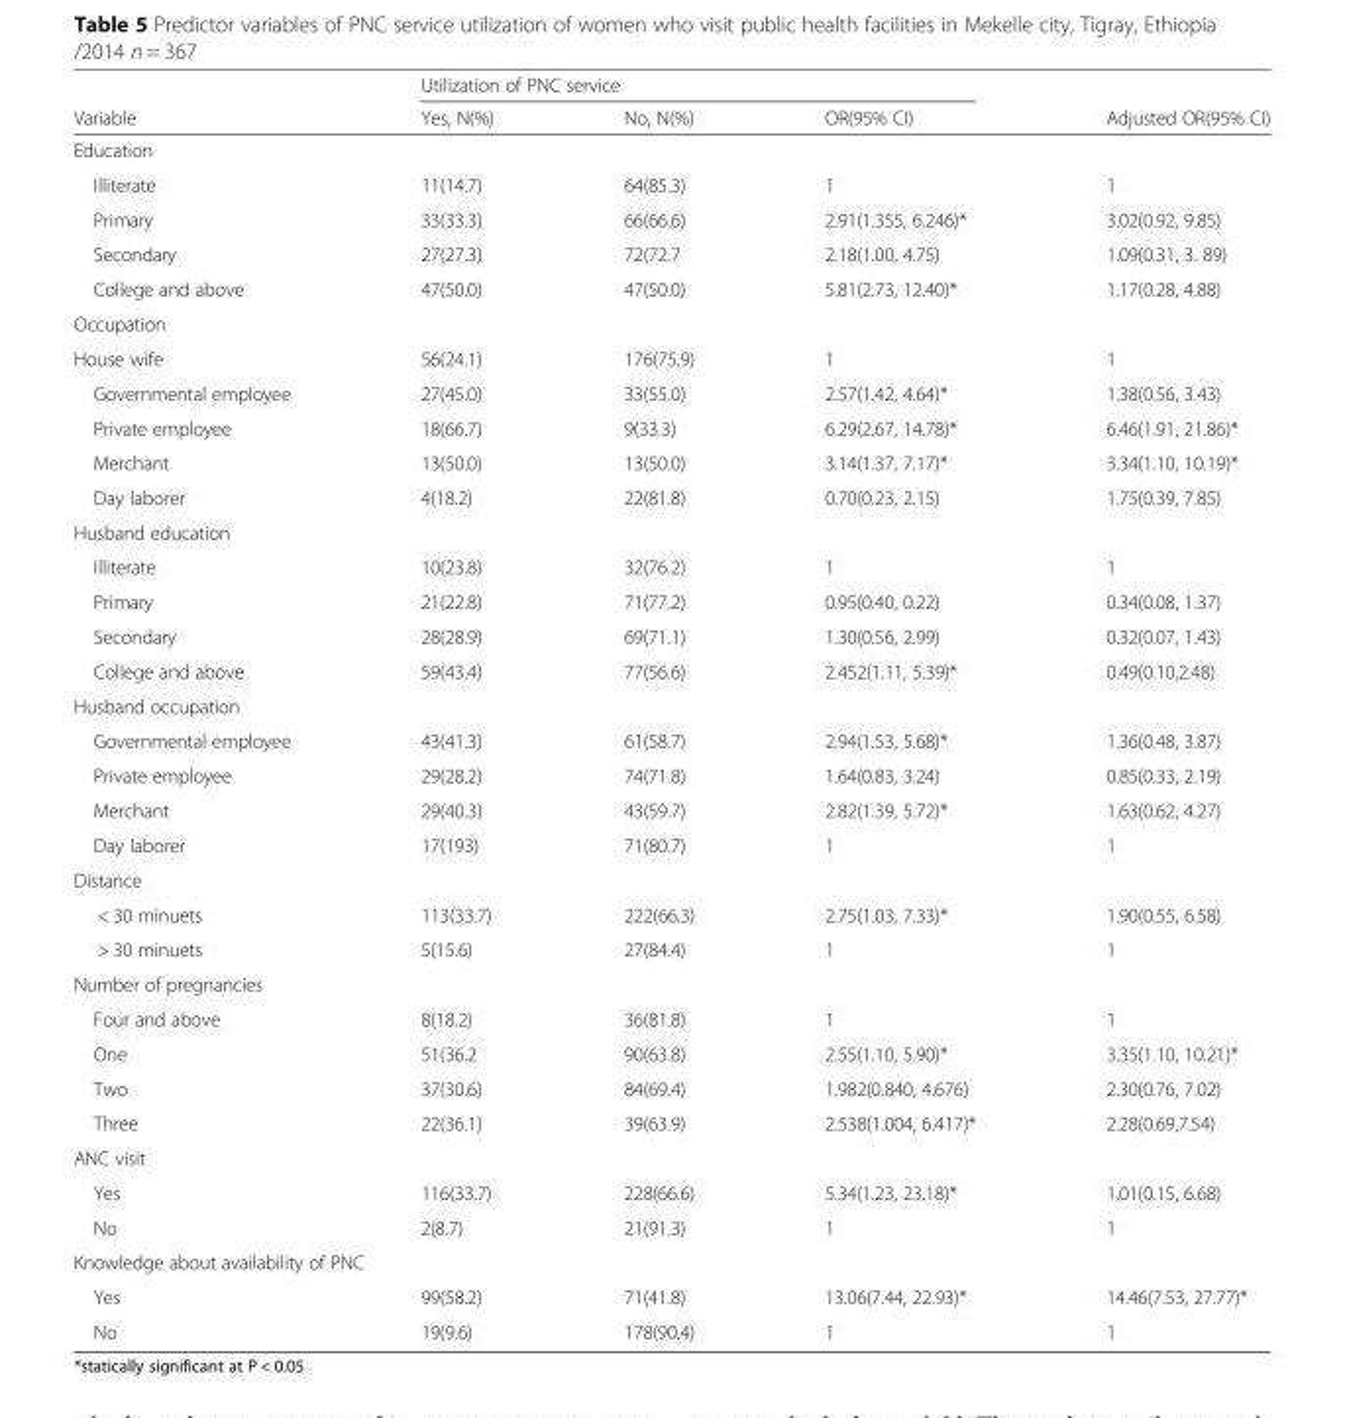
<table><thead><tr><td rowspan="2">Variable</td><td colspan="3">Utilization of PNC service</td><td rowspan="2">Adjusted OR(95% CI)</td></tr><tr><td>Yes, N(%)</td><td>No, N(%)</td><td>OR(95% CI)</td></tr></thead><tbody><tr><td colspan="5">Education</td></tr><tr><td>Illiterate</td><td>11(14.7)</td><td>64(85.3)</td><td>1</td><td>1</td></tr><tr><td>Primary</td><td>33(33.3)</td><td>66(66.6)</td><td>2.91(1.355, 6.246)*</td><td>3.02(0.92, 9.85)</td></tr><tr><td>Secondary</td><td>27(27.3)</td><td>72(72.7</td><td>2.18(1.00, 4.75)</td><td>1.09(0.31, 3. 89)</td></tr><tr><td>College and above</td><td>47(50.0)</td><td>47(50.0)</td><td>5.81(2.73, 12.40)*</td><td>1.17(0.28, 4.88)</td></tr><tr><td colspan="5">Occupation</td></tr><tr><td>House wife</td><td>56(24.1)</td><td>176(75.9)</td><td>1</td><td>1</td></tr><tr><td>Governmental employee</td><td>27(45.0)</td><td>33(55.0)</td><td>2.57(1.42, 4.64)*</td><td>1.38(0.56, 3.43)</td></tr><tr><td>Private employee</td><td>18(66.7)</td><td>9(33.3)</td><td>6.29(2.67, 14.78)*</td><td>6.46(1.91, 21.86)*</td></tr><tr><td>Merchant</td><td>13(50.0)</td><td>13(50.0)</td><td>3.14(1.37, 7.17)*</td><td>3.34(1.10, 10.19)*</td></tr><tr><td>Day laborer</td><td>4(18.2)</td><td>22(81.8)</td><td>0.70(0.23, 2.15)</td><td>1.75(0.39, 7.85)</td></tr><tr><td colspan="5">Husband education</td></tr><tr><td>Illiterate</td><td>10(23.8)</td><td>32(76.2)</td><td>1</td><td>1</td></tr><tr><td>Primary</td><td>21(22.8)</td><td>71(77.2)</td><td>0.95(0.40, 0.22)</td><td>0.34(0.08, 1.37)</td></tr><tr><td>Secondary</td><td>28(28.9)</td><td>69(71.1)</td><td>1.30(0.56, 2.99)</td><td>0.32(0.07, 1.43)</td></tr><tr><td>College and above</td><td>59(43.4)</td><td>77(56.6)</td><td>2.452(1.11, 5.39)*</td><td>0.49(0.10,2.48)</td></tr><tr><td colspan="5">Husband occupation</td></tr><tr><td>Governmental employee</td><td>43(41.3)</td><td>61(58.7)</td><td>2.94(1.53, 5.68)*</td><td>1.36(0.48, 3.87)</td></tr><tr><td>Private employee</td><td>29(28.2)</td><td>74(71.8)</td><td>1.64(0.83, 3.24)</td><td>0.85(0.33, 2.19)</td></tr><tr><td>Merchant</td><td>29(40.3)</td><td>43(59.7)</td><td>2.82(1.39, 5.72)*</td><td>1.63(0.62, 4.27)</td></tr><tr><td>Day laborer</td><td>17(193)</td><td>71(80.7)</td><td>1</td><td>1</td></tr><tr><td colspan="5">Distance</td></tr><tr><td>&lt; 30 minuets</td><td>113(33.7)</td><td>222(66.3)</td><td>2.75(1.03, 7.33)*</td><td>1.90(0.55, 6.58)</td></tr><tr><td>&gt; 30 minuets</td><td>5(15.6)</td><td>27(84.4)</td><td>1</td><td>1</td></tr><tr><td colspan="5">Number of pregnancies</td></tr><tr><td>Four and above</td><td>8(18.2)</td><td>36(81.8)</td><td>1</td><td>1</td></tr><tr><td>One</td><td>51(36.2</td><td>90(63.8)</td><td>2.55(1.10, 5.90)*</td><td>3.35(1.10, 10.21)*</td></tr><tr><td>Two</td><td>37(30.6)</td><td>84(69.4)</td><td>1.982(0.840, 4.676)</td><td>2.30(0.76, 7.02)</td></tr><tr><td>Three</td><td>22(36.1)</td><td>39(63.9)</td><td>2.538(1.004, 6.417)*</td><td>2.28(0.69,7.54)</td></tr><tr><td colspan="5">ANC visit</td></tr><tr><td>Yes</td><td>116(33.7)</td><td>228(66.6)</td><td>5.34(1.23, 23.18)*</td><td>1.01(0.15, 6.68)</td></tr><tr><td>No</td><td>2(8.7)</td><td>21(91.3)</td><td>1</td><td>1</td></tr><tr><td colspan="5">Knowledge about availability of PNC</td></tr><tr><td>Yes</td><td>99(58.2)</td><td>71(41.8)</td><td>13.06(7.44, 22.93)*</td><td>14.46(7.53, 27.77)*</td></tr><tr><td>No</td><td>19(9.6)</td><td>178(90.4)</td><td>1</td><td>1</td></tr></tbody></table>